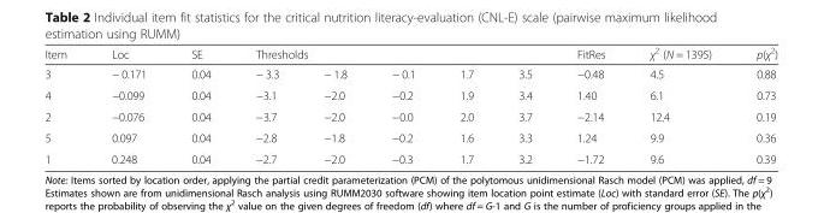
<table><thead><tr><td rowspan="2">Item 3</td><td rowspan="2">Loc − 0.171</td><td rowspan="2">SE 0.04</td><td colspan="5">Thresholds</td><td rowspan="2">FitRes −0.48</td><td rowspan="2">χ<sup>2</sup> (N = 1395) 4.5</td><td rowspan="2">p(χ<sup>2</sup>) 0.88</td></tr><tr><td>− 3.3</td><td>− 1.8</td><td>− 0.1</td><td>1.7</td><td>3.5</td></tr></thead><tbody><tr><td>4</td><td>−0.099</td><td>0.04</td><td>−3.1</td><td>−2.0</td><td>−0.2</td><td>1.9</td><td>3.4</td><td>1.40</td><td>6.1</td><td>0.73</td></tr><tr><td>2</td><td>−0.076</td><td>0.04</td><td>−3.7</td><td>−2.0</td><td>−0.0</td><td>2.0</td><td>3.7</td><td>−2.14</td><td>12.4</td><td>0.19</td></tr><tr><td>5</td><td>0.097</td><td>0.04</td><td>−2.8</td><td>−1.8</td><td>−0.2</td><td>1.6</td><td>3.3</td><td>1.24</td><td>9.9</td><td>0.36</td></tr><tr><td>1</td><td>0.248</td><td>0.04</td><td>−2.7</td><td>−2.0</td><td>−0.3</td><td>1.7</td><td>3.2</td><td>−1.72</td><td>9.6</td><td>0.39</td></tr></tbody></table>